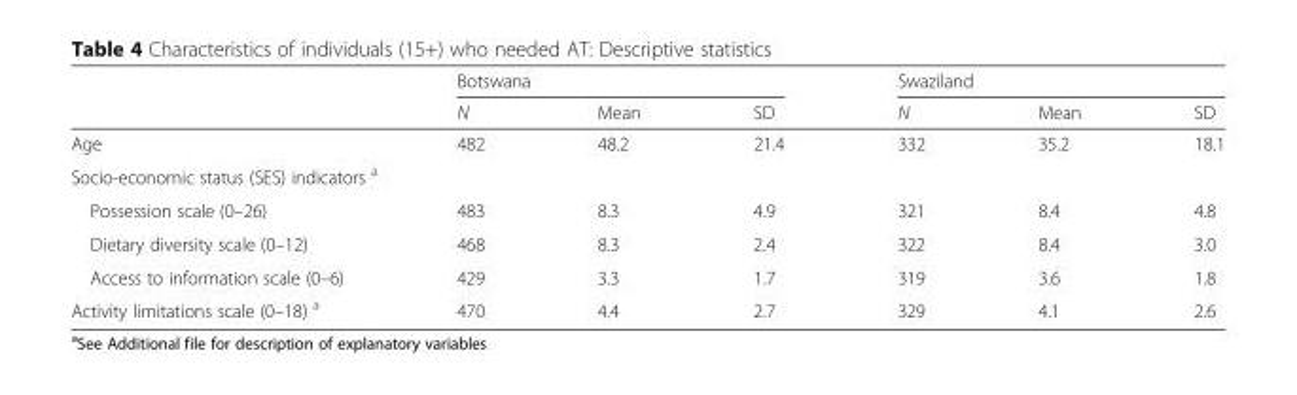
<table><thead><tr><td rowspan="2"></td><td colspan="3">Botswana</td><td colspan="3">Swaziland</td></tr><tr><td>N</td><td>Mean</td><td>SD</td><td>N</td><td>Mean</td><td>SD</td></tr></thead><tbody><tr><td>Age</td><td>482</td><td>48.2</td><td>21.4</td><td>332</td><td>35.2</td><td>18.1</td></tr><tr><td colspan="7">Socio-economic status (SES) indicators <sup>a</sup></td></tr><tr><td>Possession scale (0–26)</td><td>483</td><td>8.3</td><td>4.9</td><td>321</td><td>8.4</td><td>4.8</td></tr><tr><td>Dietary diversity scale (0–12)</td><td>468</td><td>8.3</td><td>2.4</td><td>322</td><td>8.4</td><td>3.0</td></tr><tr><td>Access to information scale (0–6)</td><td>429</td><td>3.3</td><td>1.7</td><td>319</td><td>3.6</td><td>1.8</td></tr><tr><td>Activity limitations scale (0–18) <sup>a</sup></td><td>470</td><td>4.4</td><td>2.7</td><td>329</td><td>4.1</td><td>2.6</td></tr></tbody></table>